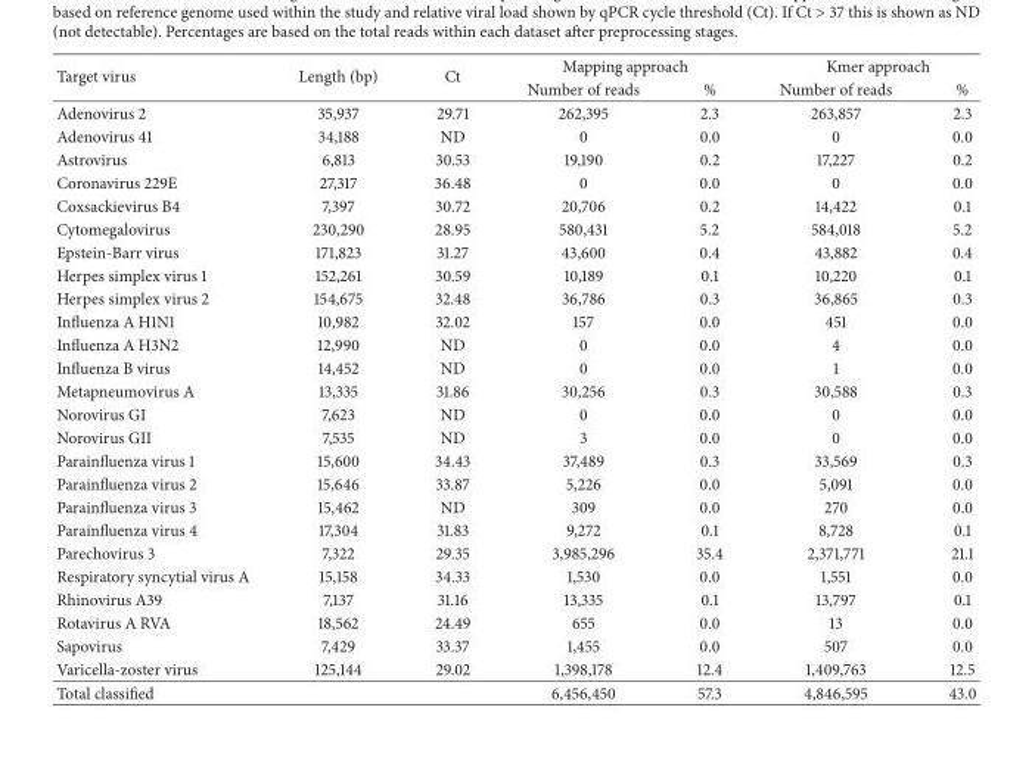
<table><thead><tr><td rowspan="2">Target virus</td><td rowspan="2">Length (bp)</td><td rowspan="2">Ct</td><td colspan="2">Mapping approach</td><td colspan="2">Kmer approach</td></tr><tr><td>Number of reads</td><td>%</td><td>Number of reads</td><td>%</td></tr></thead><tbody><tr><td>Adenovirus 2</td><td>35,937</td><td>29.71</td><td>262,395</td><td>2.3</td><td>263,857</td><td>2.3</td></tr><tr><td>Adenovirus 41</td><td>34,188</td><td>ND</td><td>0</td><td>0.0</td><td>0</td><td>0.0</td></tr><tr><td>Astrovirus</td><td>6,813</td><td>30.53</td><td>19,190</td><td>0.2</td><td>17,227</td><td>0.2</td></tr><tr><td>Coronavirus 229E</td><td>27,317</td><td>36.48</td><td>0</td><td>0.0</td><td>0</td><td>0.0</td></tr><tr><td>Coxsackievirus B4</td><td>7,397</td><td>30.72</td><td>20,706</td><td>0.2</td><td>14,422</td><td>0.1</td></tr><tr><td>Cytomegalovirus</td><td>230,290</td><td>28.95</td><td>580,431</td><td>5.2</td><td>584,018</td><td>5.2</td></tr><tr><td>Epstein-Barr virus</td><td>171,823</td><td>31.27</td><td>43,600</td><td>0.4</td><td>43,882</td><td>0.4</td></tr><tr><td>Herpes simplex virus 1</td><td>152,261</td><td>30.59</td><td>10,189</td><td>0.1</td><td>10,220</td><td>0.1</td></tr><tr><td>Herpes simplex virus 2</td><td>154,675</td><td>32.48</td><td>36,786</td><td>0.3</td><td>36,865</td><td>0.3</td></tr><tr><td>Influenza A H1N1</td><td>10,982</td><td>32.02</td><td>157</td><td>0.0</td><td>451</td><td>0.0</td></tr><tr><td>Influenza A H3N2</td><td>12,990</td><td>ND</td><td>0</td><td>0.0</td><td>4</td><td>0.0</td></tr><tr><td>Influenza B virus</td><td>14,452</td><td>ND</td><td>0</td><td>0.0</td><td>1</td><td>0.0</td></tr><tr><td>Metapneumovirus A</td><td>13,335</td><td>31.86</td><td>30,256</td><td>0.3</td><td>30,588</td><td>0.3</td></tr><tr><td>Norovirus GI</td><td>7,623</td><td>ND</td><td>0</td><td>0.0</td><td>0</td><td>0.0</td></tr><tr><td>Norovirus GII</td><td>7,535</td><td>ND</td><td>3</td><td>0.0</td><td>0</td><td>0.0</td></tr><tr><td>Parainfluenza virus 1</td><td>15,600</td><td>34.43</td><td>37,489</td><td>0.3</td><td>33,569</td><td>0.3</td></tr><tr><td>Parainfluenza virus 2</td><td>15,646</td><td>33.87</td><td>5,226</td><td>0.0</td><td>5,091</td><td>0.0</td></tr><tr><td>Parainfluenza virus 3</td><td>15,462</td><td>ND</td><td>309</td><td>0.0</td><td>270</td><td>0.0</td></tr><tr><td>Parainfluenza virus 4</td><td>17,304</td><td>31.83</td><td>9,272</td><td>0.1</td><td>8,728</td><td>0.1</td></tr><tr><td>Parechovirus 3</td><td>7,322</td><td>29.35</td><td>3,985,296</td><td>35.4</td><td>2,371,771</td><td>21.1</td></tr><tr><td>Respiratory syncytial virus A</td><td>15,158</td><td>34.33</td><td>1,530</td><td>0.0</td><td>1,551</td><td>0.0</td></tr><tr><td>Rhinovirus A39</td><td>7,137</td><td>31.16</td><td>13,335</td><td>0.1</td><td>13,797</td><td>0.1</td></tr><tr><td>Rotavirus A RVA</td><td>18,562</td><td>24.49</td><td>655</td><td>0.0</td><td>13</td><td>0.0</td></tr><tr><td>Sapovirus</td><td>7,429</td><td>33.37</td><td>1,455</td><td>0.0</td><td>507</td><td>0.0</td></tr><tr><td>Varicella-zoster virus</td><td>125,144</td><td>29.02</td><td>1,398,178</td><td>12.4</td><td>1,409,763</td><td>12.5</td></tr><tr><td>Total classified</td><td></td><td></td><td>6,456,450</td><td>57.3</td><td>4,846,595</td><td>43.0</td></tr></tbody></table>